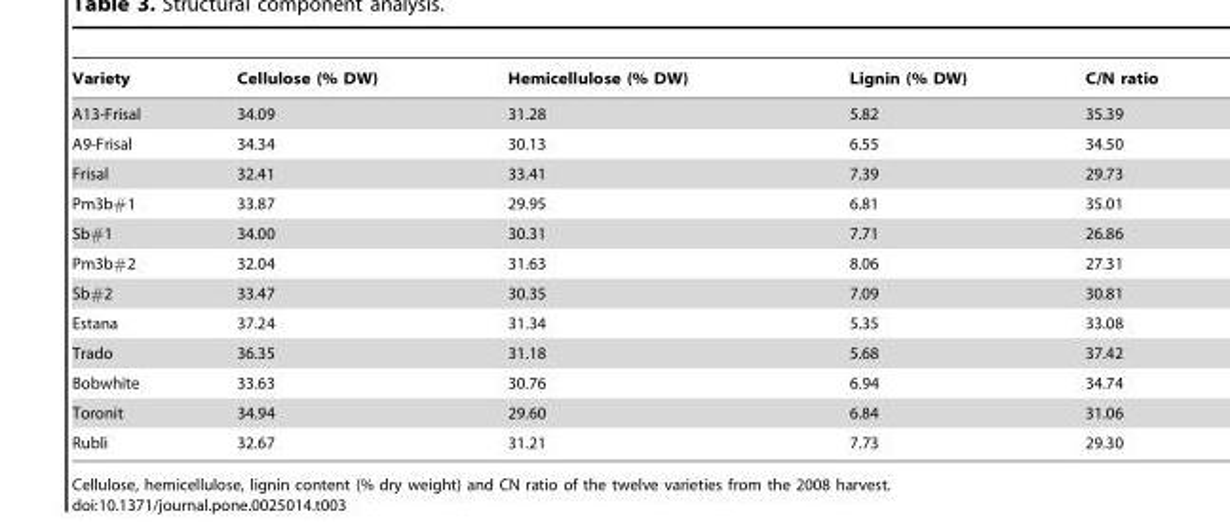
<table><thead><tr><td>Variety</td><td>Cellulose (% DW)</td><td>Hemicellulose (% DW)</td><td>Lignin (% DW)</td><td>C/N ratio</td></tr></thead><tbody><tr><td>A13-Frisal</td><td>34.09</td><td>31.28</td><td>5.82</td><td>35.39</td></tr><tr><td>A9-Frisal</td><td>34.34</td><td>30.13</td><td>6.55</td><td>34.50</td></tr><tr><td>Frisal</td><td>32.41</td><td>33.41</td><td>7.39</td><td>29.73</td></tr><tr><td>Pm3b#1</td><td>33.87</td><td>29.95</td><td>6.81</td><td>35.01</td></tr><tr><td>Sb#1</td><td>34.00</td><td>30.31</td><td>7.71</td><td>26.86</td></tr><tr><td>Pm3b#2</td><td>32.04</td><td>31.63</td><td>8.06</td><td>27.31</td></tr><tr><td>Sb#2</td><td>33.47</td><td>30.35</td><td>7.09</td><td>30.81</td></tr><tr><td>Estana</td><td>37.24</td><td>31.34</td><td>5.35</td><td>33.08</td></tr><tr><td>Trado</td><td>36.35</td><td>31.18</td><td>5.68</td><td>37.42</td></tr><tr><td>Bobwhite</td><td>33.63</td><td>30.76</td><td>6.94</td><td>34.74</td></tr><tr><td>Toronit</td><td>34.94</td><td>29.60</td><td>6.84</td><td>31.06</td></tr><tr><td>Rubli</td><td>32.67</td><td>31.21</td><td>7.73</td><td>29.30</td></tr></tbody></table>